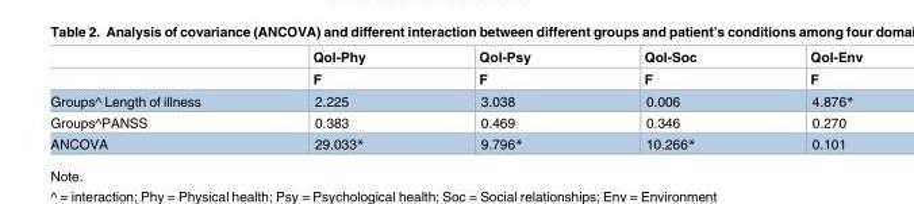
<table><thead><tr><td rowspan="2"></td><td rowspan="2">Qol-Phy F</td><td rowspan="2">Qol-Psy F</td><td rowspan="2">Qol-Soc F</td><td rowspan="2">Qol-Env F</td></tr><tr></tr></thead><tbody><tr><td>Groups^ Length of illness</td><td>2.225</td><td>3.038</td><td>0.006</td><td>4.876*</td></tr><tr><td>Groups^PANSS</td><td>0.383</td><td>0.469</td><td>0.346</td><td>0.270</td></tr><tr><td>ANCOVA</td><td>29.033*</td><td>9.796*</td><td>10.266*</td><td>0.101</td></tr></tbody></table>